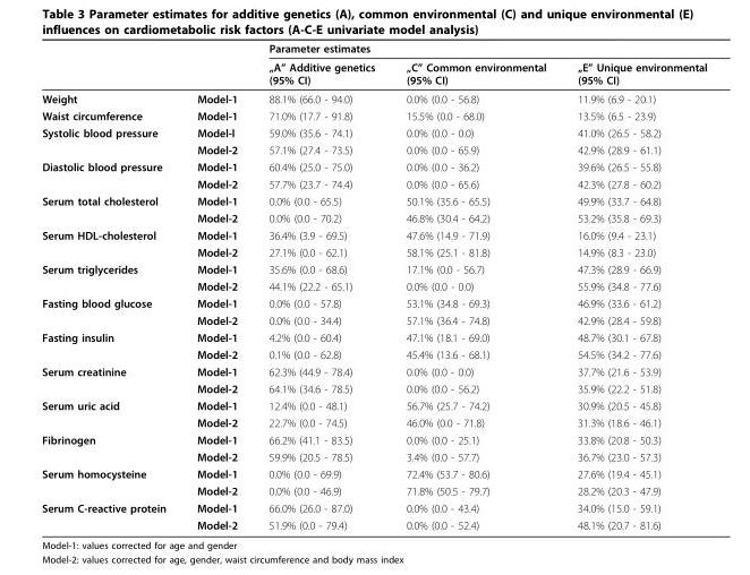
<table><thead><tr><td rowspan="2"></td><td rowspan="2"></td><td colspan="3">Parameter estimates</td></tr><tr><td>„A” Additive genetics (95% CI)</td><td>„C” Common environmental (95% CI)</td><td>„E” Unique environmental (95% CI)</td></tr></thead><tbody><tr><td>Weight</td><td>Model-1</td><td>88.1% (66.0 - 94.0)</td><td>0.0% (0.0 - 56.8)</td><td>11.9% (6.9 - 20.1)</td></tr><tr><td>Waist circumference</td><td>Model-1</td><td>71.0% (17.7 - 91.8)</td><td>15.5% (0.0 - 68.0)</td><td>13.5% (6.5 - 23.9)</td></tr><tr><td rowspan="2">Systolic blood pressure</td><td>Model-l</td><td>59.0% (35.6 - 74.1)</td><td>0.0% (0.0 - 0.0)</td><td>41.0% (26.5 - 58.2)</td></tr><tr><td>Model-2</td><td>57.1% (27.4 - 73.5)</td><td>0.0% (0.0 - 65.9)</td><td>42.9% (28.9 - 61.1)</td></tr><tr><td rowspan="2">Diastolic blood pressure</td><td>Model-1</td><td>60.4% (25.0 - 75.0)</td><td>0.0% (0.0 - 36.2)</td><td>39.6% (26.5 - 55.8)</td></tr><tr><td>Model-2</td><td>57.7% (23.7 - 74.4)</td><td>0.0% (0.0 - 65.6)</td><td>42.3% (27.8 - 60.2)</td></tr><tr><td rowspan="2">Serum total cholesterol</td><td>Model-1</td><td>0.0% (0.0 - 65.5)</td><td>50.1% (35.6 - 65.5)</td><td>49.9% (33.7 - 64.8)</td></tr><tr><td>Model-2</td><td>0.0% (0.0 - 70.2)</td><td>46.8% (30.4 - 64.2)</td><td>53.2% (35.8 - 69.3)</td></tr><tr><td rowspan="2">Serum HDL-cholesterol</td><td>Model-1</td><td>36.4% (3.9 - 69.5)</td><td>47.6% (14.9 - 71.9)</td><td>16.0% (9.4 - 23.1)</td></tr><tr><td>Model-2</td><td>27.1% (0.0 - 62.1)</td><td>58.1% (25.1 - 81.8)</td><td>14.9% (8.3 - 23.0)</td></tr><tr><td rowspan="2">Serum triglycerides</td><td>Model-1</td><td>35.6% (0.0 - 68.6)</td><td>17.1% (0.0 - 56.7)</td><td>47.3% (28.9 - 66.9)</td></tr><tr><td>Model-2</td><td>44.1% (22.2 - 65.1)</td><td>0.0% (0.0 - 0.0)</td><td>55.9% (34.8 - 77.6)</td></tr><tr><td rowspan="2">Fasting blood glucose</td><td>Model-1</td><td>0.0% (0.0 - 57.8)</td><td>53.1% (34.8 - 69.3)</td><td>46.9% (33.6 - 61.2)</td></tr><tr><td>Model-2</td><td>0.0% (0.0 - 34.4)</td><td>57.1% (36.4 - 74.8)</td><td>42.9% (28.4 - 59.8)</td></tr><tr><td rowspan="2">Fasting insulin</td><td>Model-1</td><td>4.2% (0.0 - 60.4)</td><td>47.1% (18.1 - 69.0)</td><td>48.7% (30.1 - 67.8)</td></tr><tr><td>Model-2</td><td>0.1% (0.0 - 62.8)</td><td>45.4% (13.6 - 68.1)</td><td>54.5% (34.2 - 77.6)</td></tr><tr><td rowspan="2">Serum creatinine</td><td>Model-1</td><td>62.3% (44.9 - 78.4)</td><td>0.0% (0.0 - 0.0)</td><td>37.7% (21.6 - 53.9)</td></tr><tr><td>Model-2</td><td>64.1% (34.6 - 78.5)</td><td>0.0% (0.0 - 56.2)</td><td>35.9% (22.2 - 51.8)</td></tr><tr><td rowspan="2">Serum uric acid</td><td>Model-1</td><td>12.4% (0.0 - 48.1)</td><td>56.7% (25.7 - 74.2)</td><td>30.9% (20.5 - 45.8)</td></tr><tr><td>Model-2</td><td>22.7% (0.0 - 74.5)</td><td>46.0% (0.0 - 71.8)</td><td>31.3% (18.6 - 46.1)</td></tr><tr><td rowspan="2">Fibrinogen</td><td>Model-1</td><td>66.2% (41.1 - 83.5)</td><td>0.0% (0.0 - 25.1)</td><td>33.8% (20.8 - 50.3)</td></tr><tr><td>Model-2</td><td>59.9% (20.5 - 78.5)</td><td>3.4% (0.0 - 57.7)</td><td>36.7% (23.0 - 57.3)</td></tr><tr><td rowspan="2">Serum homocysteine</td><td>Model-1</td><td>0.0% (0.0 - 69.9)</td><td>72.4% (53.7 - 80.6)</td><td>27.6% (19.4 - 45.1)</td></tr><tr><td>Model-2</td><td>0.0% (0.0 - 46.9)</td><td>71.8% (50.5 - 79.7)</td><td>28.2% (20.3 - 47.9)</td></tr><tr><td rowspan="2">Serum C-reactive protein</td><td>Model-1</td><td>66.0% (26.0 - 87.0)</td><td>0.0% (0.0 - 43.4)</td><td>34.0% (15.0 - 59.1)</td></tr><tr><td>Model-2</td><td>51.9% (0.0 - 79.4)</td><td>0.0% (0.0 - 52.4)</td><td>48.1% (20.7 - 81.6)</td></tr></tbody></table>